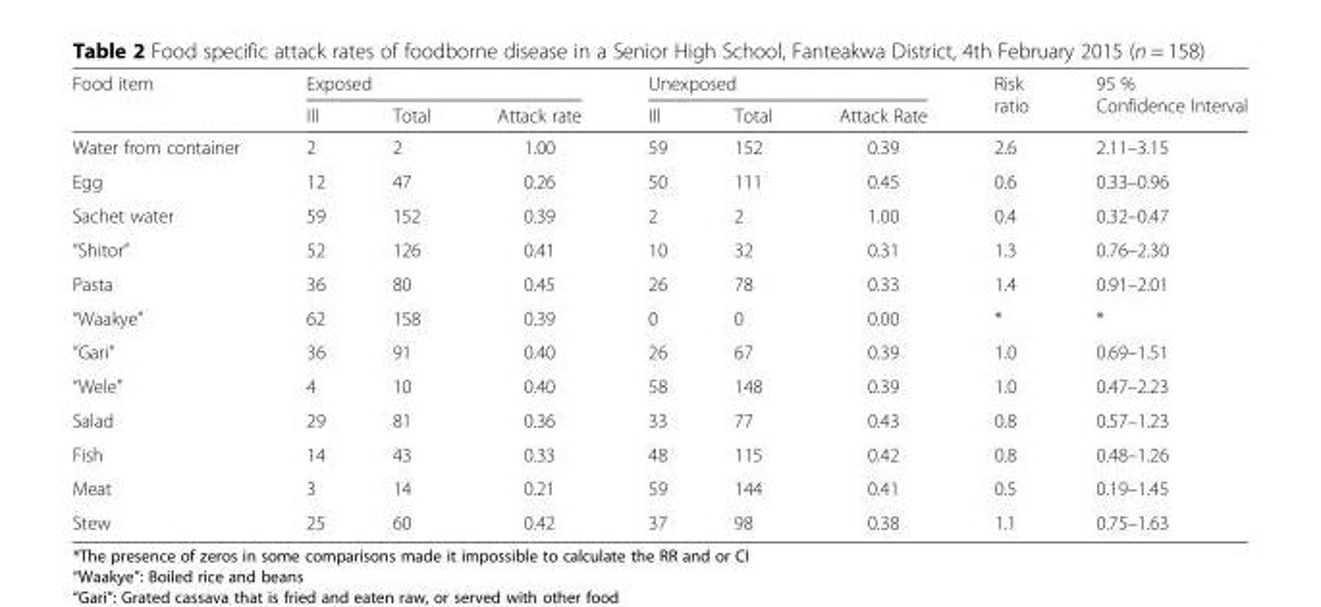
<table><thead><tr><td rowspan="2">Food item</td><td colspan="3">Exposed</td><td colspan="3">Unexposed</td><td rowspan="2">Risk ratio</td><td rowspan="2">95 % Confidence Interval</td></tr><tr><td>Ill</td><td>Total</td><td>Attack rate</td><td>Ill</td><td>Total</td><td>Attack Rate</td></tr></thead><tbody><tr><td>Water from container</td><td>2</td><td>2</td><td>1.00</td><td>59</td><td>152</td><td>0.39</td><td>2.6</td><td>2.11–3.15</td></tr><tr><td>Egg</td><td>12</td><td>47</td><td>0.26</td><td>50</td><td>111</td><td>0.45</td><td>0.6</td><td>0.33–0.96</td></tr><tr><td>Sachet water</td><td>59</td><td>152</td><td>0.39</td><td>2</td><td>2</td><td>1.00</td><td>0.4</td><td>0.32–0.47</td></tr><tr><td>“Shitor”</td><td>52</td><td>126</td><td>0.41</td><td>10</td><td>32</td><td>0.31</td><td>1.3</td><td>0.76–2.30</td></tr><tr><td>Pasta</td><td>36</td><td>80</td><td>0.45</td><td>26</td><td>78</td><td>0.33</td><td>1.4</td><td>0.91–2.01</td></tr><tr><td>“Waakye”</td><td>62</td><td>158</td><td>0.39</td><td>0</td><td>0</td><td>0.00</td><td>*</td><td>*</td></tr><tr><td>“Gari”</td><td>36</td><td>91</td><td>0.40</td><td>26</td><td>67</td><td>0.39</td><td>1.0</td><td>0.69–1.51</td></tr><tr><td>“Wele”</td><td>4</td><td>10</td><td>0.40</td><td>58</td><td>148</td><td>0.39</td><td>1.0</td><td>0.47–2.23</td></tr><tr><td>Salad</td><td>29</td><td>81</td><td>0.36</td><td>33</td><td>77</td><td>0.43</td><td>0.8</td><td>0.57–1.23</td></tr><tr><td>Fish</td><td>14</td><td>43</td><td>0.33</td><td>48</td><td>115</td><td>0.42</td><td>0.8</td><td>0.48–1.26</td></tr><tr><td>Meat</td><td>3</td><td>14</td><td>0.21</td><td>59</td><td>144</td><td>0.41</td><td>0.5</td><td>0.19–1.45</td></tr><tr><td>Stew</td><td>25</td><td>60</td><td>0.42</td><td>37</td><td>98</td><td>0.38</td><td>1.1</td><td>0.75–1.63</td></tr></tbody></table>